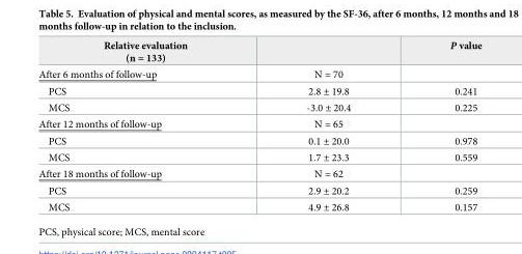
<table><thead><tr><td>Relative evaluation (n = 133)</td><td></td><td>P value</td></tr></thead><tbody><tr><td>After 6 months of follow-up</td><td>N = 70</td><td></td></tr><tr><td>PCS</td><td>2.8 ± 19.8</td><td>0.241</td></tr><tr><td>MCS</td><td>-3.0 ± 20.4</td><td>0.225</td></tr><tr><td>After 12 months of follow-up</td><td>N = 65</td><td></td></tr><tr><td>PCS</td><td>0.1 ± 20.0</td><td>0.978</td></tr><tr><td>MCS</td><td>1.7 ± 23.3</td><td>0.559</td></tr><tr><td>After 18 months of follow-up</td><td>N = 62</td><td></td></tr><tr><td>PCS</td><td>2.9 ± 20.2</td><td>0.259</td></tr><tr><td>MCS</td><td>4.9 ± 26.8</td><td>0.157</td></tr></tbody></table>